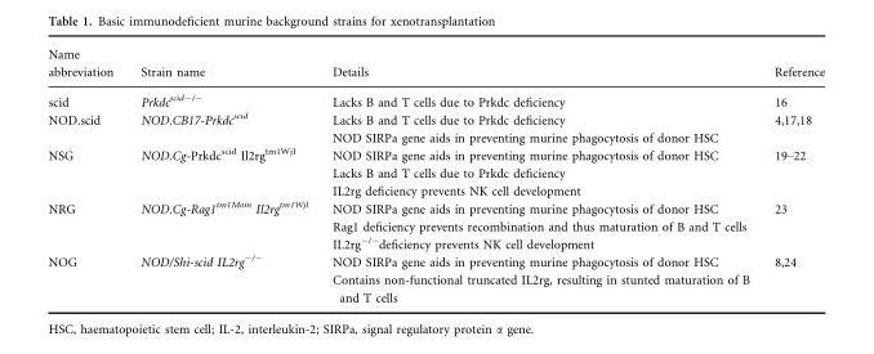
<table><thead><tr><td>Name abbreviation</td><td>Strain name</td><td>Details</td><td>Reference</td></tr></thead><tbody><tr><td>scid</td><td>Prkdc<sup>scid−/−</sup></td><td>Lacks B and T cells due to Prkdc deficiency</td><td>16</td></tr><tr><td rowspan="2">NOD.scid</td><td rowspan="2">NOD.CB17-Prkdc<sup>scid</sup></td><td>Lacks B and T cells due to Prkdc deficiency</td><td rowspan="2">4,17,18</td></tr><tr><td>NOD SIRPa gene aids in preventing murine phagocytosis of donor HSC</td></tr><tr><td rowspan="3">NSG</td><td rowspan="3">NOD.Cg-Prkdc<sup>scid</sup> Il2rg<sup>tm1WjI</sup></td><td>NOD SIRPa gene aids in preventing murine phagocytosis of donor HSC</td><td rowspan="3">19–22</td></tr><tr><td>Lacks B and T cells due to Prkdc deficiency</td></tr><tr><td>IL2rg deficiency prevents NK cell development</td></tr><tr><td rowspan="3">NRG</td><td rowspan="3">NOD.Cg-Rag1<sup>tm1Mom</sup> Il2rg<sup>tm1Wjl</sup></td><td>NOD SIRPa gene aids in preventing murine phagocytosis of donor HSC</td><td rowspan="3">23</td></tr><tr><td>Rag1 deficiency prevents recombination and thus maturation of B and T cells</td></tr><tr><td>IL2rg<sup>−/−</sup>deficiency prevents NK cell development</td></tr><tr><td rowspan="2">NOG</td><td rowspan="2">NOD/Shi-scid IL2rg<sup>−/−</sup></td><td>NOD SIRPa gene aids in preventing murine phagocytosis of donor HSC</td><td rowspan="2">8,24</td></tr><tr><td>Contains non-functional truncated IL2rg, resulting in stunted maturation of B and T cells</td></tr></tbody></table>